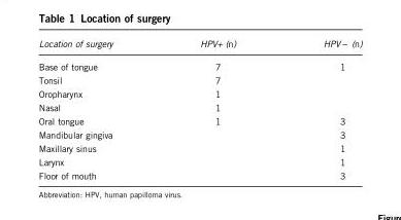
<table><thead><tr><td>Location of surgery</td><td>HPV+ (n)</td><td>HPV− (n)</td></tr></thead><tbody><tr><td>Base of tongue</td><td>7</td><td>1</td></tr><tr><td>Tonsil</td><td>7</td><td></td></tr><tr><td>Oropharynx</td><td>1</td><td></td></tr><tr><td>Nasal</td><td>1</td><td></td></tr><tr><td>Oral tongue</td><td>1</td><td>3</td></tr><tr><td>Mandibular gingiva</td><td></td><td>3</td></tr><tr><td>Maxillary sinus</td><td></td><td>1</td></tr><tr><td>Larynx</td><td></td><td>1</td></tr><tr><td>Floor of mouth</td><td></td><td>3</td></tr></tbody></table>